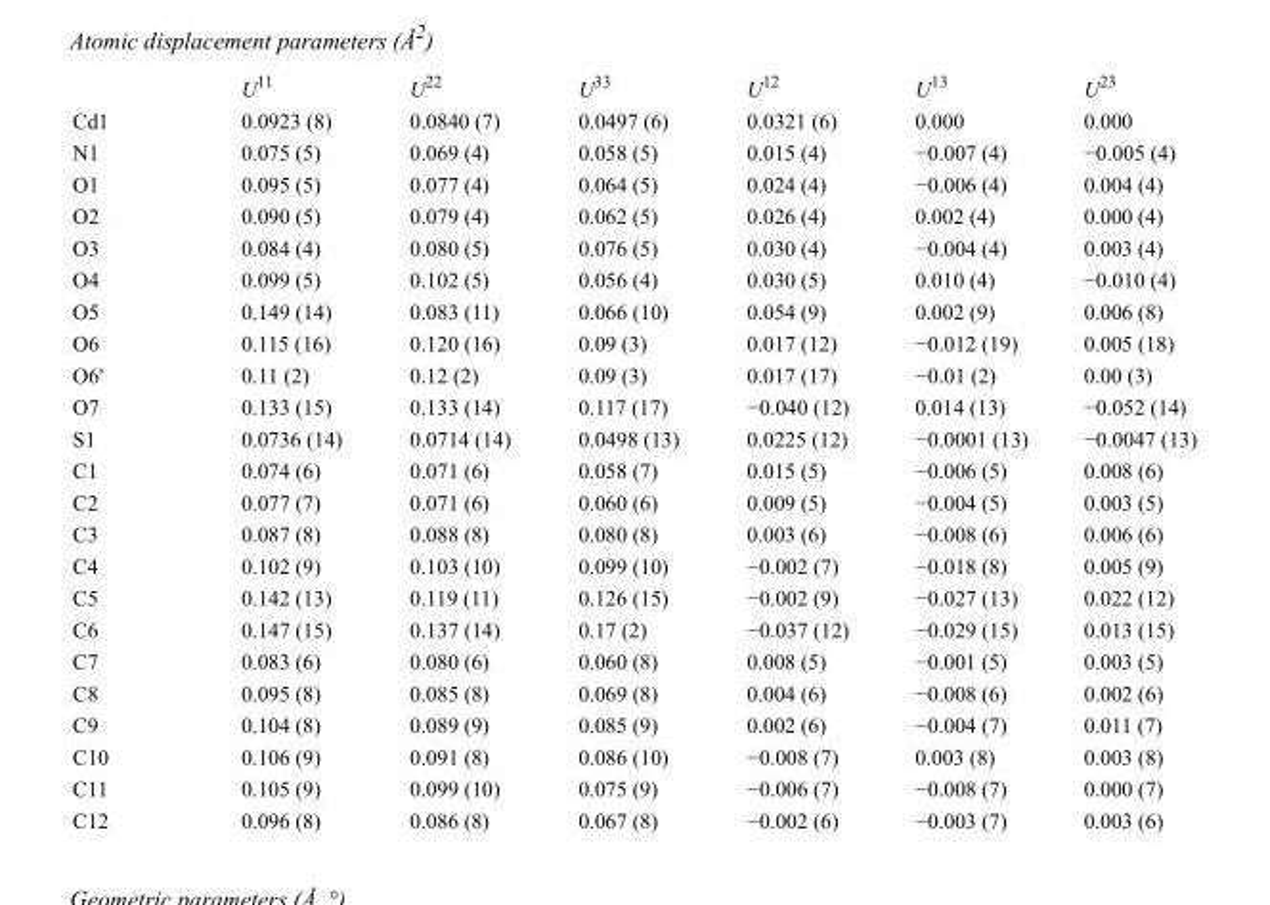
<table><thead><tr><td></td><td>U<sup>11</sup></td><td>U<sup>22</sup></td><td>U<sup>33</sup></td><td>U<sup>12</sup></td><td>U<sup>13</sup></td><td>U<sup>23</sup></td></tr></thead><tbody><tr><td>Cd1</td><td>0.0923 (8)</td><td>0.0840 (7)</td><td>0.0497 (6)</td><td>0.0321 (6)</td><td>0.000</td><td>0.000</td></tr><tr><td>N1</td><td>0.075 (5)</td><td>0.069 (4)</td><td>0.058 (5)</td><td>0.015 (4)</td><td>−0.007 (4)</td><td>−0.005 (4)</td></tr><tr><td>O1</td><td>0.095 (5)</td><td>0.077 (4)</td><td>0.064 (5)</td><td>0.024 (4)</td><td>−0.006 (4)</td><td>0.004 (4)</td></tr><tr><td>O2</td><td>0.090 (5)</td><td>0.079 (4)</td><td>0.062 (5)</td><td>0.026 (4)</td><td>0.002 (4)</td><td>0.000 (4)</td></tr><tr><td>O3</td><td>0.084 (4)</td><td>0.080 (5)</td><td>0.076 (5)</td><td>0.030 (4)</td><td>−0.004 (4)</td><td>0.003 (4)</td></tr><tr><td>O4</td><td>0.099 (5)</td><td>0.102 (5)</td><td>0.056 (4)</td><td>0.030 (5)</td><td>0.010 (4)</td><td>−0.010 (4)</td></tr><tr><td>O5</td><td>0.149 (14)</td><td>0.083 (11)</td><td>0.066 (10)</td><td>0.054 (9)</td><td>0.002 (9)</td><td>0.006 (8)</td></tr><tr><td>O6</td><td>0.115 (16)</td><td>0.120 (16)</td><td>0.09 (3)</td><td>0.017 (12)</td><td>−0.012 (19)</td><td>0.005 (18)</td></tr><tr><td>O6&#x27;</td><td>0.11 (2)</td><td>0.12 (2)</td><td>0.09 (3)</td><td>0.017 (17)</td><td>−0.01 (2)</td><td>0.00 (3)</td></tr><tr><td>O7</td><td>0.133 (15)</td><td>0.133 (14)</td><td>0.117 (17)</td><td>−0.040 (12)</td><td>0.014 (13)</td><td>−0.052 (14)</td></tr><tr><td>S1</td><td>0.0736 (14)</td><td>0.0714 (14)</td><td>0.0498 (13)</td><td>0.0225 (12)</td><td>−0.0001 (13)</td><td>−0.0047 (13)</td></tr><tr><td>C1</td><td>0.074 (6)</td><td>0.071 (6)</td><td>0.058 (7)</td><td>0.015 (5)</td><td>−0.006 (5)</td><td>0.008 (6)</td></tr><tr><td>C2</td><td>0.077 (7)</td><td>0.071 (6)</td><td>0.060 (6)</td><td>0.009 (5)</td><td>−0.004 (5)</td><td>0.003 (5)</td></tr><tr><td>C3</td><td>0.087 (8)</td><td>0.088 (8)</td><td>0.080 (8)</td><td>0.003 (6)</td><td>−0.008 (6)</td><td>0.006 (6)</td></tr><tr><td>C4</td><td>0.102 (9)</td><td>0.103 (10)</td><td>0.099 (10)</td><td>−0.002 (7)</td><td>−0.018 (8)</td><td>0.005 (9)</td></tr><tr><td>C5</td><td>0.142 (13)</td><td>0.119 (11)</td><td>0.126 (15)</td><td>−0.002 (9)</td><td>−0.027 (13)</td><td>0.022 (12)</td></tr><tr><td>C6</td><td>0.147 (15)</td><td>0.137 (14)</td><td>0.17 (2)</td><td>−0.037 (12)</td><td>−0.029 (15)</td><td>0.013 (15)</td></tr><tr><td>C7</td><td>0.083 (6)</td><td>0.080 (6)</td><td>0.060 (8)</td><td>0.008 (5)</td><td>−0.001 (5)</td><td>0.003 (5)</td></tr><tr><td>C8</td><td>0.095 (8)</td><td>0.085 (8)</td><td>0.069 (8)</td><td>0.004 (6)</td><td>−0.008 (6)</td><td>0.002 (6)</td></tr><tr><td>C9</td><td>0.104 (8)</td><td>0.089 (9)</td><td>0.085 (9)</td><td>0.002 (6)</td><td>−0.004 (7)</td><td>0.011 (7)</td></tr><tr><td>C10</td><td>0.106 (9)</td><td>0.091 (8)</td><td>0.086 (10)</td><td>−0.008 (7)</td><td>0.003 (8)</td><td>0.003 (8)</td></tr><tr><td>C11</td><td>0.105 (9)</td><td>0.099 (10)</td><td>0.075 (9)</td><td>−0.006 (7)</td><td>−0.008 (7)</td><td>0.000 (7)</td></tr><tr><td>C12</td><td>0.096 (8)</td><td>0.086 (8)</td><td>0.067 (8)</td><td>−0.002 (6)</td><td>−0.003 (7)</td><td>0.003 (6)</td></tr></tbody></table>